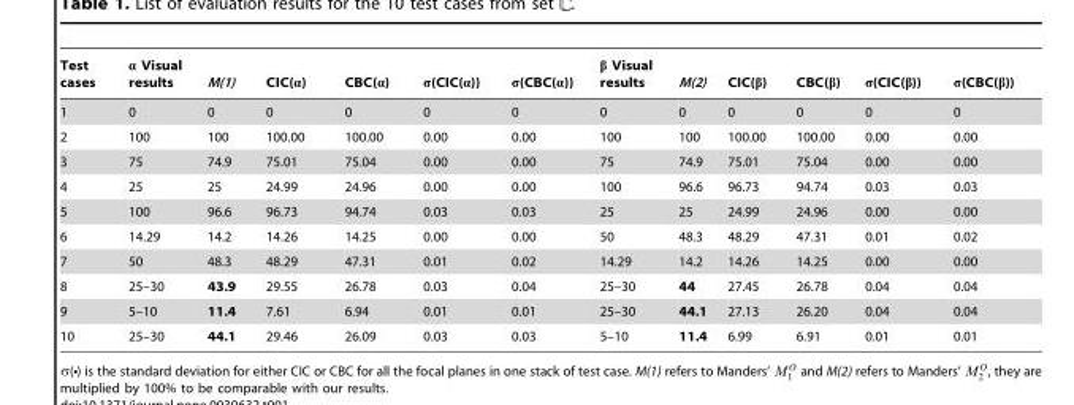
<table><thead><tr><td>Test cases</td><td>α Visual results</td><td>M(1)</td><td>CIC(α)</td><td>CBC(α)</td><td>σ(CIC(α))</td><td>σ(CBC(α))</td><td>β Visual results</td><td>M(2)</td><td>CIC(β)</td><td>CBC(β)</td><td>σ(CIC(β))</td><td>σ(CBC(β))</td></tr></thead><tbody><tr><td>1</td><td>0</td><td>0</td><td>0</td><td>0</td><td>0</td><td>0</td><td>0</td><td>0</td><td>0</td><td>0</td><td>0</td><td>0</td></tr><tr><td>2</td><td>100</td><td>100</td><td>100.00</td><td>100.00</td><td>0.00</td><td>0.00</td><td>100</td><td>100</td><td>100.00</td><td>100.00</td><td>0.00</td><td>0.00</td></tr><tr><td>3</td><td>75</td><td>74.9</td><td>75.01</td><td>75.04</td><td>0.00</td><td>0.00</td><td>75</td><td>74.9</td><td>75.01</td><td>75.04</td><td>0.00</td><td>0.00</td></tr><tr><td>4</td><td>25</td><td>25</td><td>24.99</td><td>24.96</td><td>0.00</td><td>0.00</td><td>100</td><td>96.6</td><td>96.73</td><td>94.74</td><td>0.03</td><td>0.03</td></tr><tr><td>5</td><td>100</td><td>96.6</td><td>96.73</td><td>94.74</td><td>0.03</td><td>0.03</td><td>25</td><td>25</td><td>24.99</td><td>24.96</td><td>0.00</td><td>0.00</td></tr><tr><td>6</td><td>14.29</td><td>14.2</td><td>14.26</td><td>14.25</td><td>0.00</td><td>0.00</td><td>50</td><td>48.3</td><td>48.29</td><td>47.31</td><td>0.01</td><td>0.02</td></tr><tr><td>7</td><td>50</td><td>48.3</td><td>48.29</td><td>47.31</td><td>0.01</td><td>0.02</td><td>14.29</td><td>14.2</td><td>14.26</td><td>14.25</td><td>0.00</td><td>0.00</td></tr><tr><td>8</td><td>25–30</td><td>43.9</td><td>29.55</td><td>26.78</td><td>0.03</td><td>0.04</td><td>25–30</td><td>44</td><td>27.45</td><td>26.78</td><td>0.04</td><td>0.04</td></tr><tr><td>9</td><td>5–10</td><td>11.4</td><td>7.61</td><td>6.94</td><td>0.01</td><td>0.01</td><td>25–30</td><td>44.1</td><td>27.13</td><td>26.20</td><td>0.04</td><td>0.04</td></tr><tr><td>10</td><td>25–30</td><td>44.1</td><td>29.46</td><td>26.09</td><td>0.03</td><td>0.03</td><td>5–10</td><td>11.4</td><td>6.99</td><td>6.91</td><td>0.01</td><td>0.01</td></tr></tbody></table>